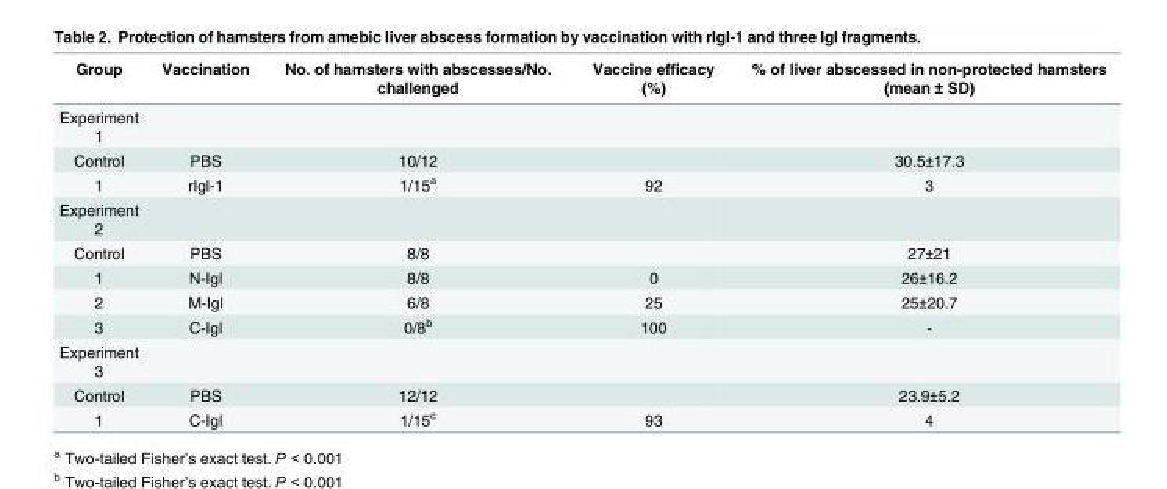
<table><thead><tr><td>Group</td><td>Vaccination</td><td>No. of hamsters with abscesses/No. challenged</td><td>Vaccine efficacy (%)</td><td>% of liver abscessed in non-protected hamsters (mean ± SD)</td></tr></thead><tbody><tr><td colspan="5">Experiment 1</td></tr><tr><td>Control</td><td>PBS</td><td>10/12</td><td></td><td>30.5±17.3</td></tr><tr><td>1</td><td>rIgl-1</td><td>1/15<sup>a</sup></td><td>92</td><td>3</td></tr><tr><td colspan="5">Experiment 2</td></tr><tr><td>Control</td><td>PBS</td><td>8/8</td><td></td><td>27±21</td></tr><tr><td>1</td><td>N-Igl</td><td>8/8</td><td>0</td><td>26±16.2</td></tr><tr><td>2</td><td>M-Igl</td><td>6/8</td><td>25</td><td>25±20.7</td></tr><tr><td>3</td><td>C-Igl</td><td>0/8<sup>b</sup></td><td>100</td><td>-</td></tr><tr><td colspan="5">Experiment 3</td></tr><tr><td>Control</td><td>PBS</td><td>12/12</td><td></td><td>23.9±5.2</td></tr><tr><td>1</td><td>C-Igl</td><td>1/15<sup>c</sup></td><td>93</td><td>4</td></tr></tbody></table>